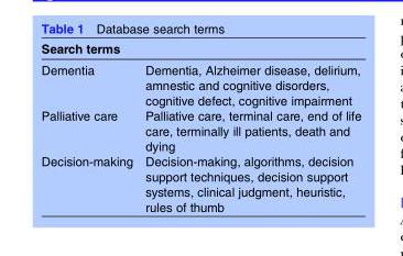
<table><thead><tr><td colspan="2">Search terms</td></tr><tr><td>Dementia</td><td>Dementia, Alzheimer disease, delirium, amnestic and cognitive disorders, cognitive defect, cognitive impairment</td></tr></thead><tbody><tr><td>Palliative care</td><td>Palliative care, terminal care, end of life care, terminally ill patients, death and dying</td></tr><tr><td>Decision-making</td><td>Decision-making, algorithms, decision support techniques, decision support systems, clinical judgment, heuristic, rules of thumb</td></tr></tbody></table>